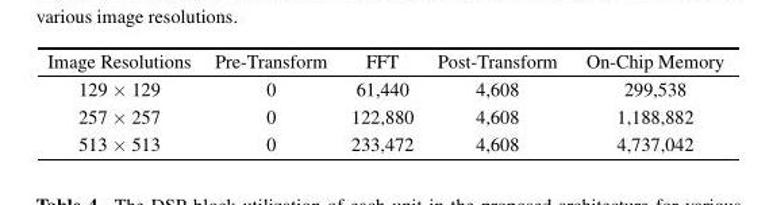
<table><thead><tr><td>Image Resolutions</td><td>Pre-Transform</td><td>FFT</td><td>Post-Transform</td><td>On-Chip Memory</td></tr></thead><tbody><tr><td>129 × 129</td><td>0</td><td>61,440</td><td>4,608</td><td>299,538</td></tr><tr><td>257 × 257</td><td>0</td><td>122,880</td><td>4,608</td><td>1,188,882</td></tr><tr><td>513 × 513</td><td>0</td><td>233,472</td><td>4,608</td><td>4,737,042</td></tr></tbody></table>